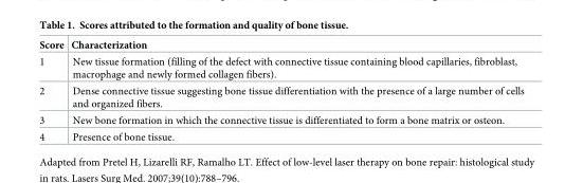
<table><thead><tr><td>Score</td><td>Characterization</td></tr></thead><tbody><tr><td>1</td><td>New tissue formation (filling of the defect with connective tissue containing blood capillaries, fibroblast, macrophage and newly formed collagen fibers).</td></tr><tr><td>2</td><td>Dense connective tissue suggesting bone tissue differentiation with the presence of a large number of cells and organized fibers.</td></tr><tr><td>3</td><td>New bone formation in which the connective tissue is differentiated to form a bone matrix or osteon.</td></tr><tr><td>4</td><td>Presence of bone tissue.</td></tr></tbody></table>